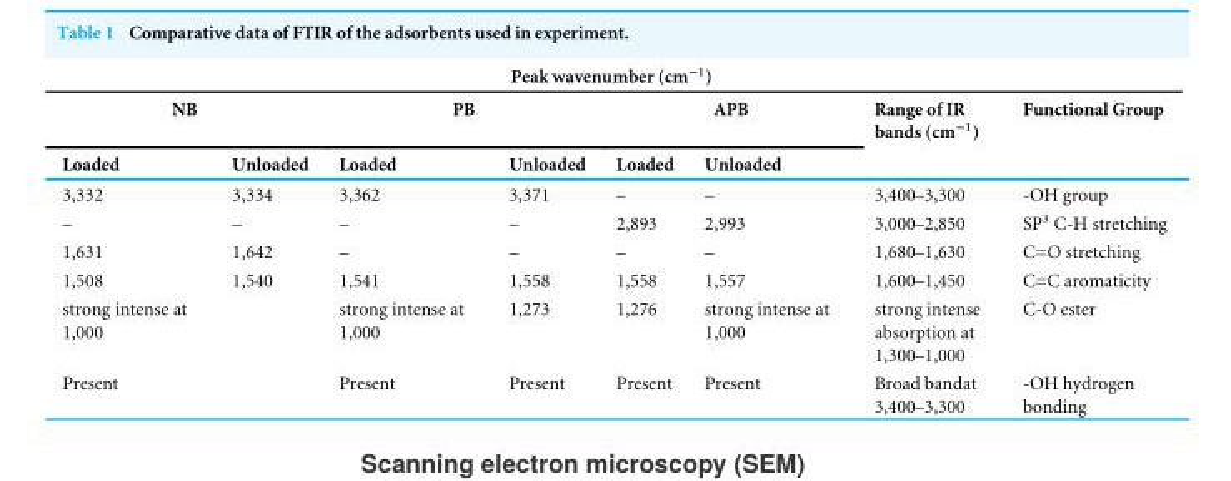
<table><thead><tr><td colspan="8">Peak wavenumber (cm<sup>−1</sup>)</td></tr><tr><td colspan="2">NB</td><td colspan="2">PB</td><td colspan="2">APB</td><td rowspan="2">Range of IR bands (cm<sup>−1</sup>)</td><td rowspan="2">Functional Group</td></tr><tr><td>Loaded</td><td>Unloaded</td><td>Loaded</td><td>Unloaded</td><td>Loaded</td><td>Unloaded</td></tr></thead><tbody><tr><td>3,332</td><td>3,334</td><td>3,362</td><td>3,371</td><td>–</td><td>–</td><td>3,400–3,300</td><td>-OH group</td></tr><tr><td>–</td><td>–</td><td>–</td><td>–</td><td>2,893</td><td>2,993</td><td>3,000–2,850</td><td>SP<sup>3</sup> C-H stretching</td></tr><tr><td>1,631</td><td>1,642</td><td>–</td><td>–</td><td>–</td><td>–</td><td>1,680–1,630</td><td>C=O stretching</td></tr><tr><td>1,508</td><td>1,540</td><td>1,541</td><td>1,558</td><td>1,558</td><td>1,557</td><td>1,600–1,450</td><td>C=C aromaticity</td></tr><tr><td>strong intense at 1,000</td><td></td><td>strong intense at 1,000</td><td>1,273</td><td>1,276</td><td>strong intense at 1,000</td><td>strong intense absorption at 1,300–1,000</td><td>C-O ester</td></tr><tr><td>Present</td><td></td><td>Present</td><td>Present</td><td>Present</td><td>Present</td><td>Broad bandat 3,400–3,300</td><td>-OH hydrogen bonding</td></tr></tbody></table>